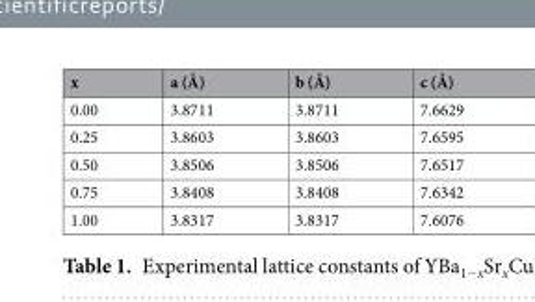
<table><thead><tr><td>x</td><td>a (Å)</td><td>b (Å)</td><td>c (Å)</td></tr></thead><tbody><tr><td>0.00</td><td>3.8711</td><td>3.8711</td><td>7.6629</td></tr><tr><td>0.25</td><td>3.8603</td><td>3.8603</td><td>7.6595</td></tr><tr><td>0.50</td><td>3.8506</td><td>3.8506</td><td>7.6517</td></tr><tr><td>0.75</td><td>3.8408</td><td>3.8408</td><td>7.6342</td></tr><tr><td>1.00</td><td>3.8317</td><td>3.8317</td><td>7.6076</td></tr></tbody></table>